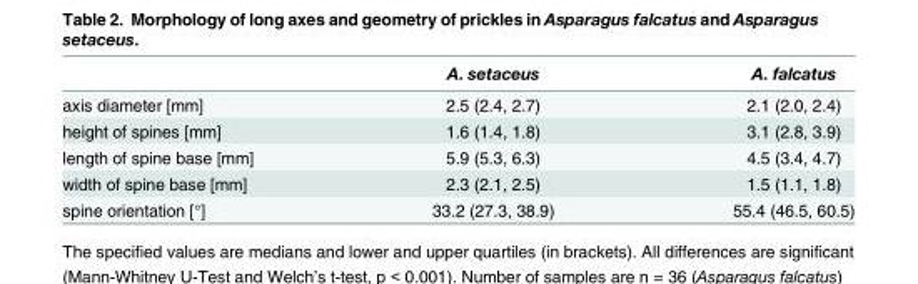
<table><thead><tr><td></td><td>A. setaceus</td><td>A. falcatus</td></tr></thead><tbody><tr><td>axis diameter [mm]</td><td>2.5 (2.4, 2.7)</td><td>2.1 (2.0, 2.4)</td></tr><tr><td>height of spines [mm]</td><td>1.6 (1.4, 1.8)</td><td>3.1 (2.8, 3.9)</td></tr><tr><td>length of spine base [mm]</td><td>5.9 (5.3, 6.3)</td><td>4.5 (3.4, 4.7)</td></tr><tr><td>width of spine base [mm]</td><td>2.3 (2.1, 2.5)</td><td>1.5 (1.1, 1.8)</td></tr><tr><td>spine orientation [°]</td><td>33.2 (27.3, 38.9)</td><td>55.4 (46.5, 60.5)</td></tr></tbody></table>